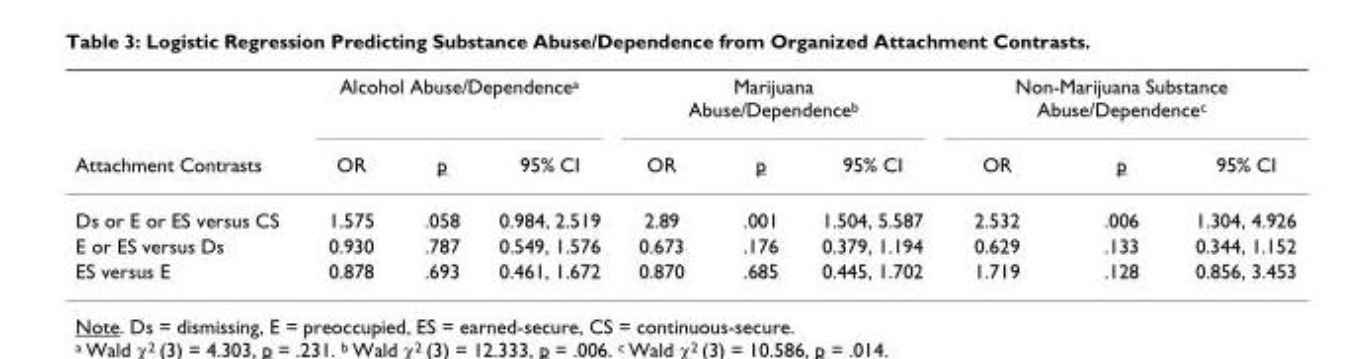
<table><thead><tr><td rowspan="2">Attachment Contrasts</td><td colspan="3">Alcohol Abuse/Dependence<sup>a</sup></td><td colspan="3">Marijuana Abuse/Dependence<sup>b</sup></td><td colspan="3">Non-Marijuana Substance Abuse/Dependence<sup>c</sup></td></tr><tr><td>OR</td><td>p</td><td>95% CI</td><td>OR</td><td>p</td><td>95% CI</td><td>OR</td><td>p</td><td>95% CI</td></tr></thead><tbody><tr><td>Ds or E or ES versus CS</td><td>1.575</td><td>.058</td><td>0.984, 2.519</td><td>2.89</td><td>.001</td><td>1.504, 5.587</td><td>2.532</td><td>.006</td><td>1.304, 4.926</td></tr><tr><td>E or ES versus Ds</td><td>0.930</td><td>.787</td><td>0.549, 1.576</td><td>0.673</td><td>.176</td><td>0.379, 1.194</td><td>0.629</td><td>.133</td><td>0.344, 1.152</td></tr><tr><td>ES versus E</td><td>0.878</td><td>.693</td><td>0.461, 1.672</td><td>0.870</td><td>.685</td><td>0.445, 1.702</td><td>1.719</td><td>.128</td><td>0.856, 3.453</td></tr></tbody></table>